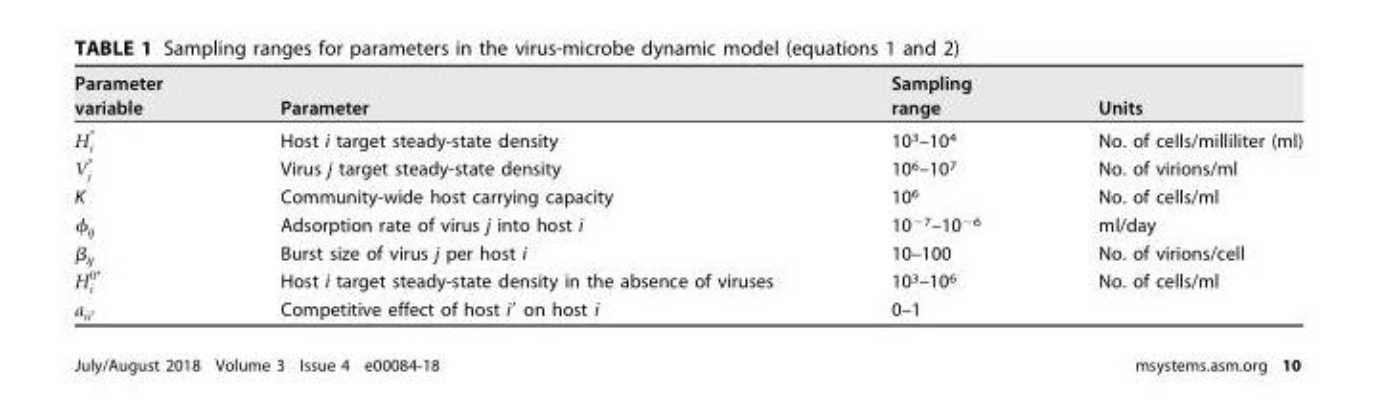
<table><thead><tr><td>Parameter variable</td><td>Parameter</td><td>Sampling range</td><td>Units</td></tr></thead><tbody><tr><td>H<sub>i</sub> *</td><td>Host i target steady-state density</td><td>10<sup>3</sup>–10<sup>4</sup></td><td>No. of cells/milliliter (ml)</td></tr><tr><td>Vj *</td><td>Virus j target steady-state density</td><td>10<sup>6</sup>–10<sup>7</sup></td><td>No. of virions/ml</td></tr><tr><td>K</td><td>Community-wide host carrying capacity</td><td>10<sup>6</sup></td><td>No. of cells/ml</td></tr><tr><td>ϕ<sub>ij</sub></td><td>Adsorption rate of virus j into host i</td><td>10<sup>−7</sup>–10<sup>−6</sup></td><td>ml/day</td></tr><tr><td>β<sub>ij</sub></td><td>Burst size of virus j per host i</td><td>10–100</td><td>No. of virions/cell</td></tr><tr><td>H<sub>i</sub> <sup>0*</sup></td><td>Host i target steady-state density in the absence of viruses</td><td>10<sup>3</sup>–10<sup>6</sup></td><td>No. of cells/ml</td></tr><tr><td>a<sub>ii&#x27;</sub></td><td>Competitive effect of host i= on host i</td><td>0–1</td><td></td></tr></tbody></table>